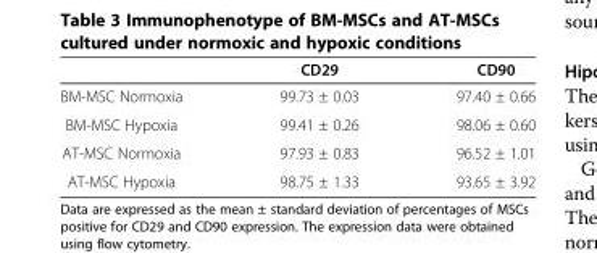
<table><thead><tr><td></td><td>CD29</td><td>CD90</td></tr></thead><tbody><tr><td>BM-MSC Normoxia</td><td>99.73 ± 0.03</td><td>97.40 ± 0.66</td></tr><tr><td>BM-MSC Hypoxia</td><td>99.41 ± 0.26</td><td>98.06 ± 0.60</td></tr><tr><td>AT-MSC Normoxia</td><td>97.93 ± 0.83</td><td>96.52 ± 1.01</td></tr><tr><td>AT-MSC Hypoxia</td><td>98.75 ± 1.33</td><td>93.65 ± 3.92</td></tr></tbody></table>